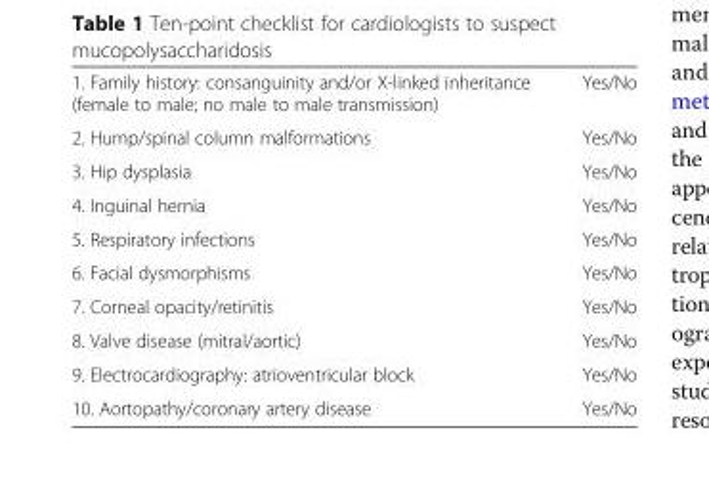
<table><tbody><tr><td>1. Family history: consanguinity and/or X-linked inheritance (female to male; no male to male transmission)</td><td>Yes/No</td></tr><tr><td>2. Hump/spinal column malformations</td><td>Yes/No</td></tr><tr><td>3. Hip dysplasia</td><td>Yes/No</td></tr><tr><td>4. Inguinal hernia</td><td>Yes/No</td></tr><tr><td>5. Respiratory infections</td><td>Yes/No</td></tr><tr><td>6. Facial dysmorphisms</td><td>Yes/No</td></tr><tr><td>7. Corneal opacity/retinitis</td><td>Yes/No</td></tr><tr><td>8. Valve disease (mitral/aortic)</td><td>Yes/No</td></tr><tr><td>9. Electrocardiography: atrioventricular block</td><td>Yes/No</td></tr><tr><td>10. Aortopathy/coronary artery disease</td><td>Yes/No</td></tr></tbody></table>